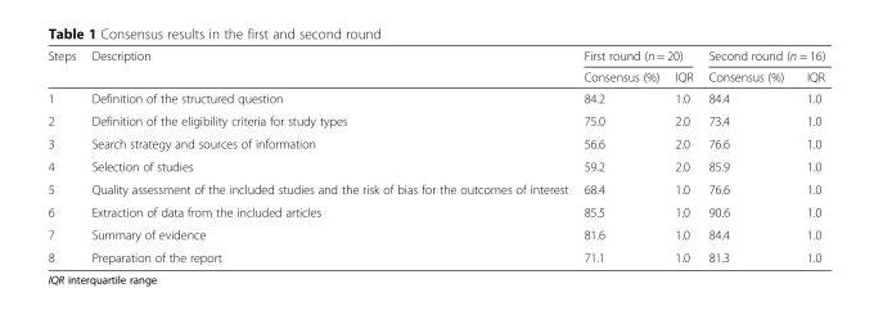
<table><thead><tr><td rowspan="2">Steps</td><td rowspan="2">Description</td><td colspan="2">First round (n = 20)</td><td colspan="2">Second round (n = 16)</td></tr><tr><td>Consensus (%)</td><td>IQR</td><td>Consensus (%)</td><td>IQR</td></tr></thead><tbody><tr><td>1</td><td>Definition of the structured question</td><td>84.2</td><td>1.0</td><td>84.4</td><td>1.0</td></tr><tr><td>2</td><td>Definition of the eligibility criteria for study types</td><td>75.0</td><td>2.0</td><td>73.4</td><td>1.0</td></tr><tr><td>3</td><td>Search strategy and sources of information</td><td>56.6</td><td>2.0</td><td>76.6</td><td>1.0</td></tr><tr><td>4</td><td>Selection of studies</td><td>59.2</td><td>2.0</td><td>85.9</td><td>1.0</td></tr><tr><td>5</td><td>Quality assessment of the included studies and the risk of bias for the outcomes of interest</td><td>68.4</td><td>1.0</td><td>76.6</td><td>1.0</td></tr><tr><td>6</td><td>Extraction of data from the included articles</td><td>85.5</td><td>1.0</td><td>90.6</td><td>1.0</td></tr><tr><td>7</td><td>Summary of evidence</td><td>81.6</td><td>1.0</td><td>84.4</td><td>1.0</td></tr><tr><td>8</td><td>Preparation of the report</td><td>71.1</td><td>1.0</td><td>81.3</td><td>1.0</td></tr></tbody></table>